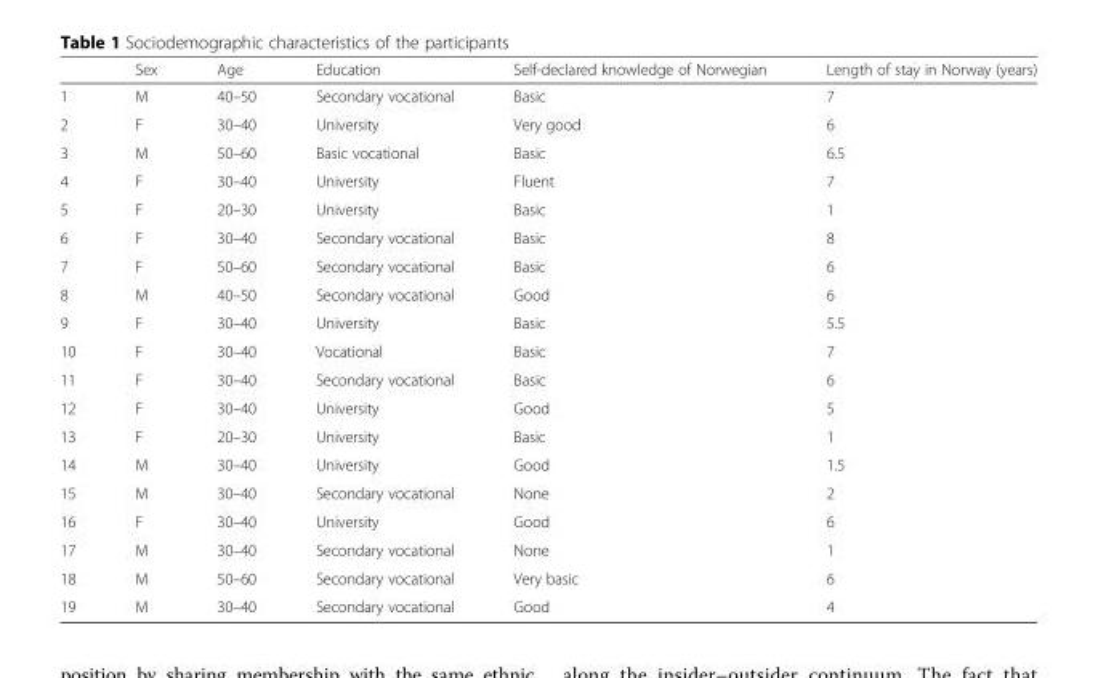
<table><thead><tr><td></td><td>Sex</td><td>Age</td><td>Education</td><td>Self-declared knowledge of Norwegian</td><td>Length of stay in Norway (years)</td></tr></thead><tbody><tr><td>1</td><td>M</td><td>40–50</td><td>Secondary vocational</td><td>Basic</td><td>7</td></tr><tr><td>2</td><td>F</td><td>30–40</td><td>University</td><td>Very good</td><td>6</td></tr><tr><td>3</td><td>M</td><td>50–60</td><td>Basic vocational</td><td>Basic</td><td>6.5</td></tr><tr><td>4</td><td>F</td><td>30–40</td><td>University</td><td>Fluent</td><td>7</td></tr><tr><td>5</td><td>F</td><td>20–30</td><td>University</td><td>Basic</td><td>1</td></tr><tr><td>6</td><td>F</td><td>30–40</td><td>Secondary vocational</td><td>Basic</td><td>8</td></tr><tr><td>7</td><td>F</td><td>50–60</td><td>Secondary vocational</td><td>Basic</td><td>6</td></tr><tr><td>8</td><td>M</td><td>40–50</td><td>Secondary vocational</td><td>Good</td><td>6</td></tr><tr><td>9</td><td>F</td><td>30–40</td><td>University</td><td>Basic</td><td>5.5</td></tr><tr><td>10</td><td>F</td><td>30–40</td><td>Vocational</td><td>Basic</td><td>7</td></tr><tr><td>11</td><td>F</td><td>30–40</td><td>Secondary vocational</td><td>Basic</td><td>6</td></tr><tr><td>12</td><td>F</td><td>30–40</td><td>University</td><td>Good</td><td>5</td></tr><tr><td>13</td><td>F</td><td>20–30</td><td>University</td><td>Basic</td><td>1</td></tr><tr><td>14</td><td>M</td><td>30–40</td><td>University</td><td>Good</td><td>1.5</td></tr><tr><td>15</td><td>M</td><td>30–40</td><td>Secondary vocational</td><td>None</td><td>2</td></tr><tr><td>16</td><td>F</td><td>30–40</td><td>University</td><td>Good</td><td>6</td></tr><tr><td>17</td><td>M</td><td>30–40</td><td>Secondary vocational</td><td>None</td><td>1</td></tr><tr><td>18</td><td>M</td><td>50–60</td><td>Secondary vocational</td><td>Very basic</td><td>6</td></tr><tr><td>19</td><td>M</td><td>30–40</td><td>Secondary vocational</td><td>Good</td><td>4</td></tr></tbody></table>